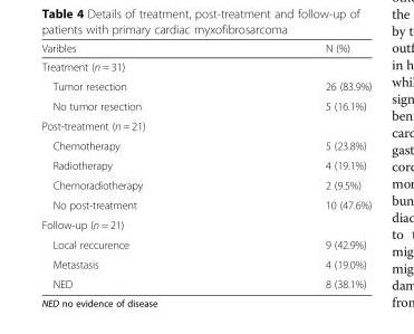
<table><thead><tr><td>Varibles</td><td>N (%)</td></tr></thead><tbody><tr><td colspan="2">Treatment (n = 31)</td></tr><tr><td>Tumor resection</td><td>26 (83.9%)</td></tr><tr><td>No tumor resection</td><td>5 (16.1%)</td></tr><tr><td colspan="2">Post-treatment (n = 21)</td></tr><tr><td>Chemotherapy</td><td>5 (23.8%)</td></tr><tr><td>Radiotherapy</td><td>4 (19.1%)</td></tr><tr><td>Chemoradiotherapy</td><td>2 (9.5%)</td></tr><tr><td>No post-treatment</td><td>10 (47.6%)</td></tr><tr><td colspan="2">Follow-up (n = 21)</td></tr><tr><td>Local reccurence</td><td>9 (42.9%)</td></tr><tr><td>Metastasis</td><td>4 (19.0%)</td></tr><tr><td>NED</td><td>8 (38.1%)</td></tr></tbody></table>